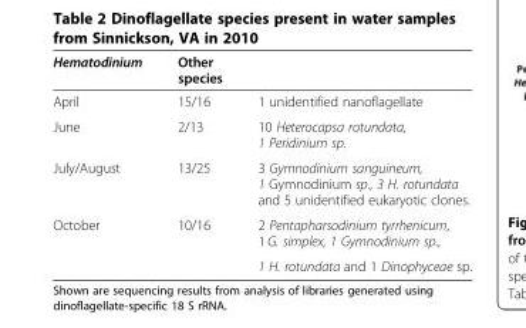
<table><thead><tr><td>Hematodinium</td><td>Other species</td><td></td></tr></thead><tbody><tr><td>April</td><td>15/16</td><td>1 unidentified nanoflagellate</td></tr><tr><td>June</td><td>2/13</td><td>10 Heterocapsa rotundata, 1 Peridinium sp.</td></tr><tr><td>July/August</td><td>13/25</td><td>3 Gymnodinium sanguineum, 1 Gymnodinium sp., 3 H. rotundata and 5 unidentified eukaryotic clones.</td></tr><tr><td rowspan="2">October</td><td>10/16</td><td>2 Pentapharsodinium tyrrhenicum, 1 G. simplex, 1 Gymnodinium sp.,</td></tr><tr><td></td><td>1 H. rotundata and 1 Dinophyceae sp.</td></tr></tbody></table>